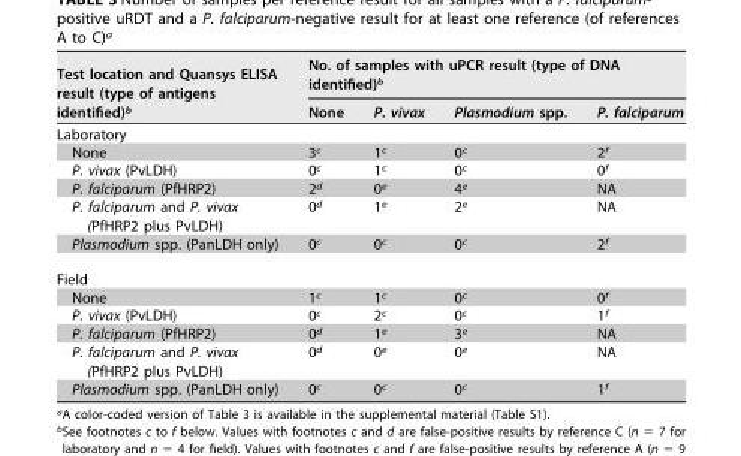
<table><thead><tr><td rowspan="2">Test location and Quansys ELISA result (type of antigens identified)<sup>b</sup></td><td colspan="4">No. of samples with uPCR result (type of DNA identified)<sup>b</sup></td></tr><tr><td>None</td><td>P. vivax</td><td>Plasmodium spp.</td><td>P. falciparum</td></tr></thead><tbody><tr><td colspan="5">Laboratory</td></tr><tr><td>None</td><td>3<sup>c</sup></td><td>1<sup>c</sup></td><td>0<sup>c</sup></td><td>2<sup>f</sup></td></tr><tr><td>P. vivax (PvLDH)</td><td>0<sup>c</sup></td><td>1<sup>c</sup></td><td>0<sup>c</sup></td><td>0<sup>f</sup></td></tr><tr><td>P. falciparum (PfHRP2)</td><td>2<sup>d</sup></td><td>0<sup>e</sup></td><td>4<sup>e</sup></td><td>NA</td></tr><tr><td>P. falciparum and P. vivax (PfHRP2 plus PvLDH)</td><td>0<sup>d</sup></td><td>1<sup>e</sup></td><td>2<sup>e</sup></td><td>NA</td></tr><tr><td>Plasmodium spp. (PanLDH only)</td><td>0<sup>c</sup></td><td>0<sup>c</sup></td><td>0<sup>c</sup></td><td>2<sup>f</sup></td></tr><tr><td colspan="5">Field</td></tr><tr><td>None</td><td>1<sup>c</sup></td><td>1<sup>c</sup></td><td>0<sup>c</sup></td><td>0<sup>f</sup></td></tr><tr><td>P. vivax (PvLDH)</td><td>0<sup>c</sup></td><td>2<sup>c</sup></td><td>0<sup>c</sup></td><td>1<sup>f</sup></td></tr><tr><td>P. falciparum (PfHRP2)</td><td>0<sup>d</sup></td><td>1<sup>e</sup></td><td>3<sup>e</sup></td><td>NA</td></tr><tr><td>P. falciparum and P. vivax (PfHRP2 plus PvLDH)</td><td>0<sup>d</sup></td><td>0<sup>e</sup></td><td>0<sup>e</sup></td><td>NA</td></tr><tr><td>Plasmodium spp. (PanLDH only)</td><td>0<sup>c</sup></td><td>0<sup>c</sup></td><td>0<sup>c</sup></td><td>1<sup>f</sup></td></tr></tbody></table>